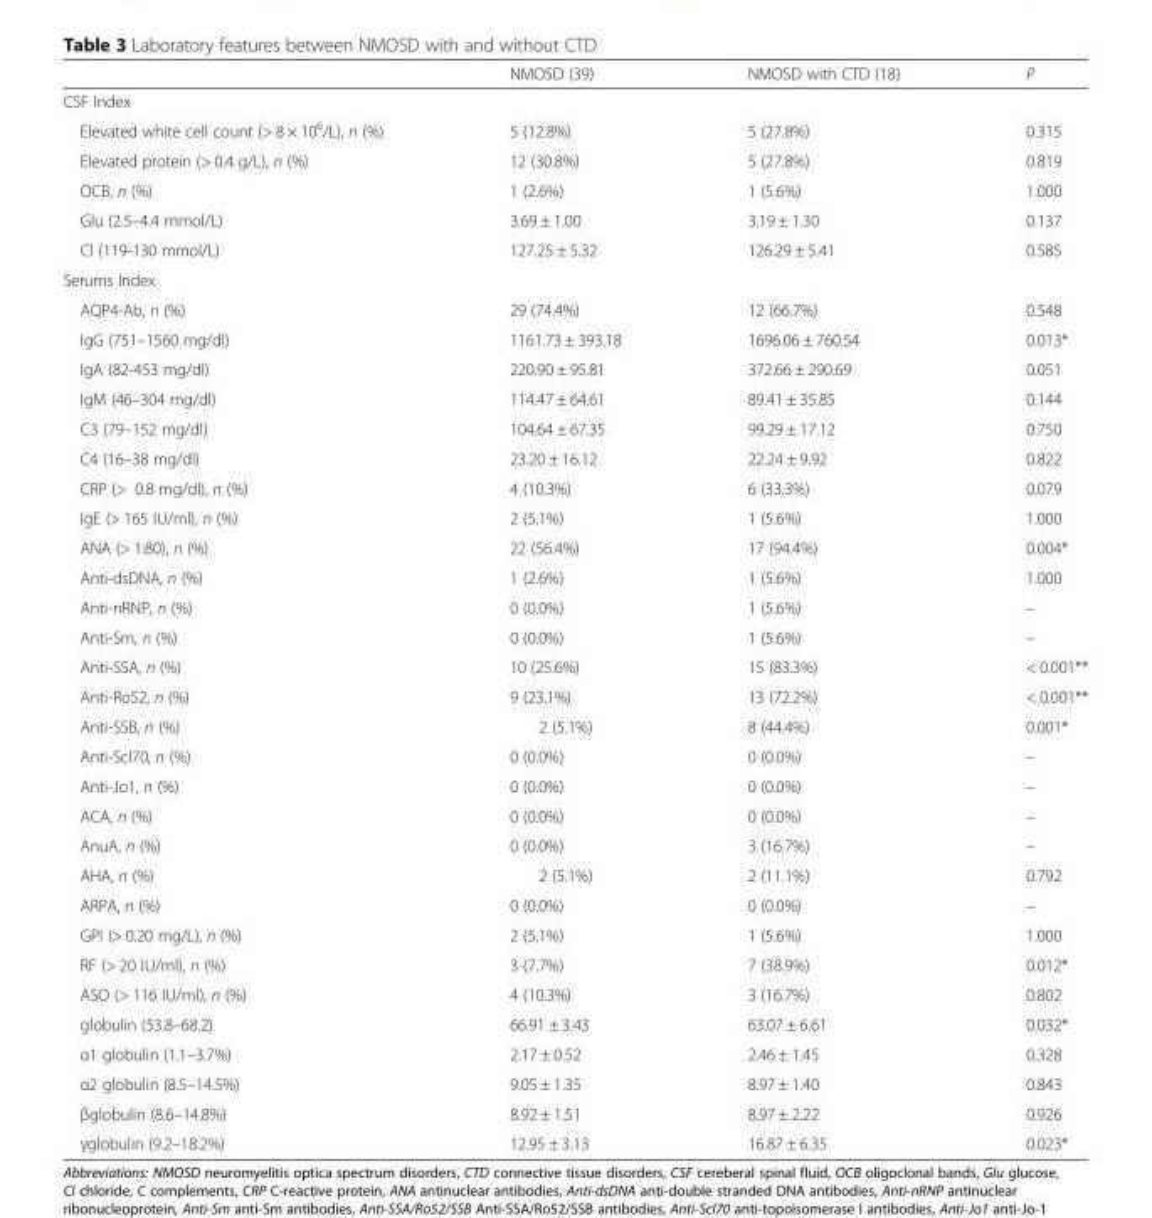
<table><thead><tr><td></td><td>NMOSD (39)</td><td>NMOSD with CTD (18)</td><td>P</td></tr></thead><tbody><tr><td colspan="4">CSF Index</td></tr><tr><td>Elevated white cell count (&gt; 8 × 10<sup>6</sup>/L), n (%)</td><td>5 (12.8%)</td><td>5 (27.8%)</td><td>0.315</td></tr><tr><td>Elevated protein (&gt; 0.4 g/L), n (%)</td><td>12 (30.8%)</td><td>5 (27.8%)</td><td>0.819</td></tr><tr><td>OCB, n (%)</td><td>1 (2.6%)</td><td>1 (5.6%)</td><td>1.000</td></tr><tr><td>Glu (2.5–4.4 mmol/L)</td><td>3.69 ± 1.00</td><td>3.19 ± 1.30</td><td>0.137</td></tr><tr><td>Cl (119-130 mmol/L)</td><td>127.25 ± 5.32</td><td>126.29 ± 5.41</td><td>0.585</td></tr><tr><td colspan="4">Serums Index</td></tr><tr><td>AQP4-Ab, n (%)</td><td>29 (74.4%)</td><td>12 (66.7%)</td><td>0.548</td></tr><tr><td>IgG (751–1560 mg/dl)</td><td>1161.73 ± 393.18</td><td>1696.06 ± 760.54</td><td>0.013*</td></tr><tr><td>IgA (82-453 mg/dl)</td><td>220.90 ± 95.81</td><td>372.66 ± 290.69</td><td>0.051</td></tr><tr><td>IgM (46–304 mg/dl)</td><td>114.47 ± 64.61</td><td>89.41 ± 35.85</td><td>0.144</td></tr><tr><td>C3 (79–152 mg/dl)</td><td>104.64 ± 67.35</td><td>99.29 ± 17.12</td><td>0.750</td></tr><tr><td>C4 (16–38 mg/dl)</td><td>23.20 ± 16.12</td><td>22.24 ± 9.92</td><td>0.822</td></tr><tr><td>CRP (&gt; 0.8 mg/dl), n (%)</td><td>4 (10.3%)</td><td>6 (33.3%)</td><td>0.079</td></tr><tr><td>IgE (&gt; 165 IU/ml), n (%)</td><td>2 (5.1%)</td><td>1 (5.6%)</td><td>1.000</td></tr><tr><td>ANA (&gt; 1:80), n (%)</td><td>22 (56.4%)</td><td>17 (94.4%)</td><td>0.004*</td></tr><tr><td>Anti-dsDNA, n (%)</td><td>1 (2.6%)</td><td>1 (5.6%)</td><td>1.000</td></tr><tr><td>Anti-nRNP, n (%)</td><td>0 (0.0%)</td><td>1 (5.6%)</td><td>–</td></tr><tr><td>Anti-Sm, n (%)</td><td>0 (0.0%)</td><td>1 (5.6%)</td><td>–</td></tr><tr><td>Anti-SSA, n (%)</td><td>10 (25.6%)</td><td>15 (83.3%)</td><td>&lt; 0.001**</td></tr><tr><td>Anti-Ro52, n (%)</td><td>9 (23.1%)</td><td>13 (72.2%)</td><td>&lt; 0.001**</td></tr><tr><td>Anti-SSB, n (%)</td><td>2 (5.1%)</td><td>8 (44.4%)</td><td>0.001*</td></tr><tr><td>Anti-Scl70, n (%)</td><td>0 (0.0%)</td><td>0 (0.0%)</td><td>–</td></tr><tr><td>Anti-Jo1, n (%)</td><td>0 (0.0%)</td><td>0 (0.0%)</td><td>–</td></tr><tr><td>ACA, n (%)</td><td>0 (0.0%)</td><td>0 (0.0%)</td><td>–</td></tr><tr><td>AnuA, n (%)</td><td>0 (0.0%)</td><td>3 (16.7%)</td><td>–</td></tr><tr><td>AHA, n (%)</td><td>2 (5.1%)</td><td>2 (11.1%)</td><td>0.792</td></tr><tr><td>ARPA, n (%)</td><td>0 (0.0%)</td><td>0 (0.0%)</td><td>–</td></tr><tr><td>GPI (&gt; 0.20 mg/L), n (%)</td><td>2 (5.1%)</td><td>1 (5.6%)</td><td>1.000</td></tr><tr><td>RF (&gt; 20 IU/ml), n (%)</td><td>3 (7.7%)</td><td>7 (38.9%)</td><td>0.012*</td></tr><tr><td>ASO (&gt; 116 IU/ml), n (%)</td><td>4 (10.3%)</td><td>3 (16.7%)</td><td>0.802</td></tr><tr><td>globulin (53.8–68.2)</td><td>66.91 ± 3.43</td><td>63.07 ± 6.61</td><td>0.032*</td></tr><tr><td>α1 globulin (1.1–3.7%)</td><td>2.17 ± 0.52</td><td>2.46 ± 1.45</td><td>0.328</td></tr><tr><td>α2 globulin (8.5–14.5%)</td><td>9.05 ± 1.35</td><td>8.97 ± 1.40</td><td>0.843</td></tr><tr><td>βglobulin (8.6–14.8%)</td><td>8.92 ± 1.51</td><td>8.97 ± 2.22</td><td>0.926</td></tr><tr><td>γglobulin (9.2–18.2%)</td><td>12.95 ± 3.13</td><td>16.87 ± 6.35</td><td>0.023*</td></tr></tbody></table>